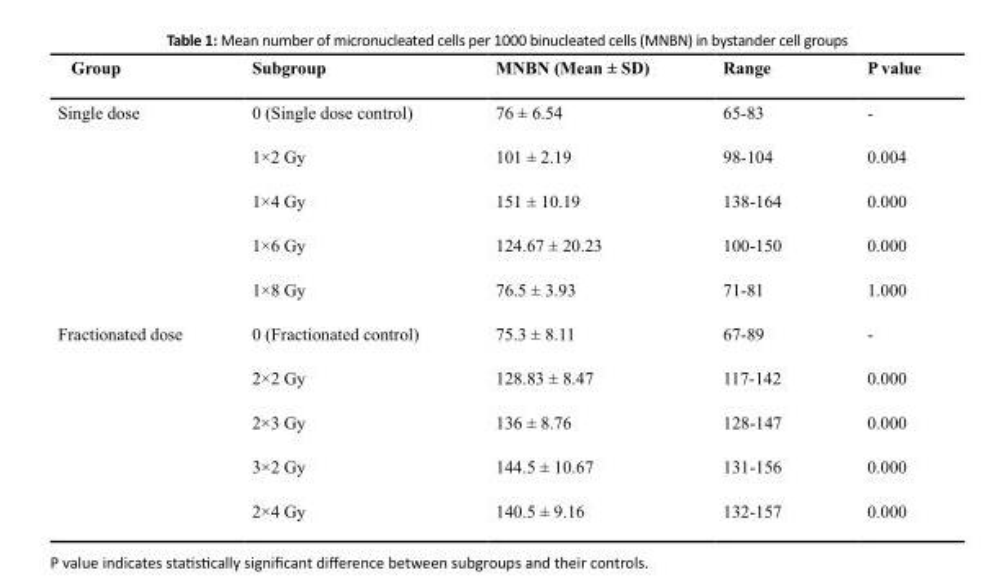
<table><thead><tr><td>Group</td><td>Subgroup</td><td>MNBN (Mean ± SD)</td><td>Range</td><td>P value</td></tr></thead><tbody><tr><td rowspan="5">Single dose</td><td>0 (Single dose control)</td><td>76 ± 6.54</td><td>65-83</td><td>-</td></tr><tr><td>1×2 Gy</td><td>101 ± 2.19</td><td>98-104</td><td>0.004</td></tr><tr><td>1×4 Gy</td><td>151 ± 10.19</td><td>138-164</td><td>0.000</td></tr><tr><td>1×6 Gy</td><td>124.67 ± 20.23</td><td>100-150</td><td>0.000</td></tr><tr><td>1×8 Gy</td><td>76.5 ± 3.93</td><td>71-81</td><td>1.000</td></tr><tr><td rowspan="5">Fractionated dose</td><td>0 (Fractionated control)</td><td>75.3 ± 8.11</td><td>67-89</td><td>-</td></tr><tr><td>2×2 Gy</td><td>128.83 ± 8.47</td><td>117-142</td><td>0.000</td></tr><tr><td>2×3 Gy</td><td>136 ± 8.76</td><td>128-147</td><td>0.000</td></tr><tr><td>3×2 Gy</td><td>144.5 ± 10.67</td><td>131-156</td><td>0.000</td></tr><tr><td>2×4 Gy</td><td>140.5 ± 9.16</td><td>132-157</td><td>0.000</td></tr></tbody></table>